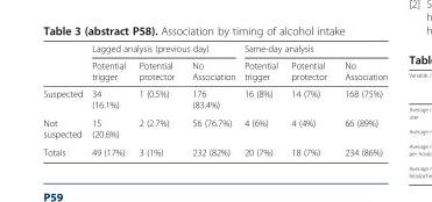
<table><thead><tr><td rowspan="2"></td><td colspan="3">Lagged analysis (previous day)</td><td colspan="3">Same-day analysis</td></tr><tr><td>Potential trigger</td><td>Potential protector</td><td>No Association</td><td>Potential trigger</td><td>Potential protector</td><td>No Association</td></tr></thead><tbody><tr><td>Suspected</td><td>34 (16.1%)</td><td>1 (0.5%)</td><td>176 (83.4%)</td><td>16 (8%)</td><td>14 (7%)</td><td>168 (75%)</td></tr><tr><td>Not suspected</td><td>15 (20.6%)</td><td>2 (2.7%)</td><td>56 (76.7%)</td><td>4 (6%)</td><td>4 (4%)</td><td>66 (89%)</td></tr><tr><td>Totals</td><td>49 (17%)</td><td>3 (1%)</td><td>232 (82%)</td><td>20 (7%)</td><td>18 (7%)</td><td>234 (86%)</td></tr></tbody></table>